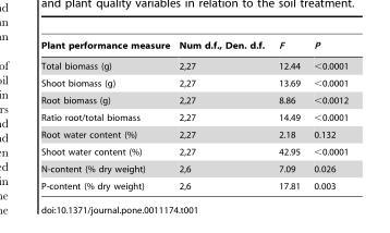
<table><thead><tr><td>Plant performance measure</td><td>Num d.f., Den. d.f.</td><td>F</td><td>P</td></tr></thead><tbody><tr><td>Total biomass (g)</td><td>2,27</td><td>12.44</td><td>&lt;0.0001</td></tr><tr><td>Shoot biomass (g)</td><td>2,27</td><td>13.69</td><td>&lt;0.0001</td></tr><tr><td>Root biomass (g)</td><td>2,27</td><td>8.86</td><td>&lt;0.0012</td></tr><tr><td>Ratio root/total biomass</td><td>2,27</td><td>14.49</td><td>&lt;0.0001</td></tr><tr><td>Root water content (%)</td><td>2,27</td><td>2.18</td><td>0.132</td></tr><tr><td>Shoot water content (%)</td><td>2,27</td><td>42.95</td><td>&lt;0.0001</td></tr><tr><td>N-content (% dry weight)</td><td>2,6</td><td>7.09</td><td>0.026</td></tr><tr><td>P-content (% dry weight)</td><td>2,6</td><td>17.81</td><td>0.003</td></tr></tbody></table>